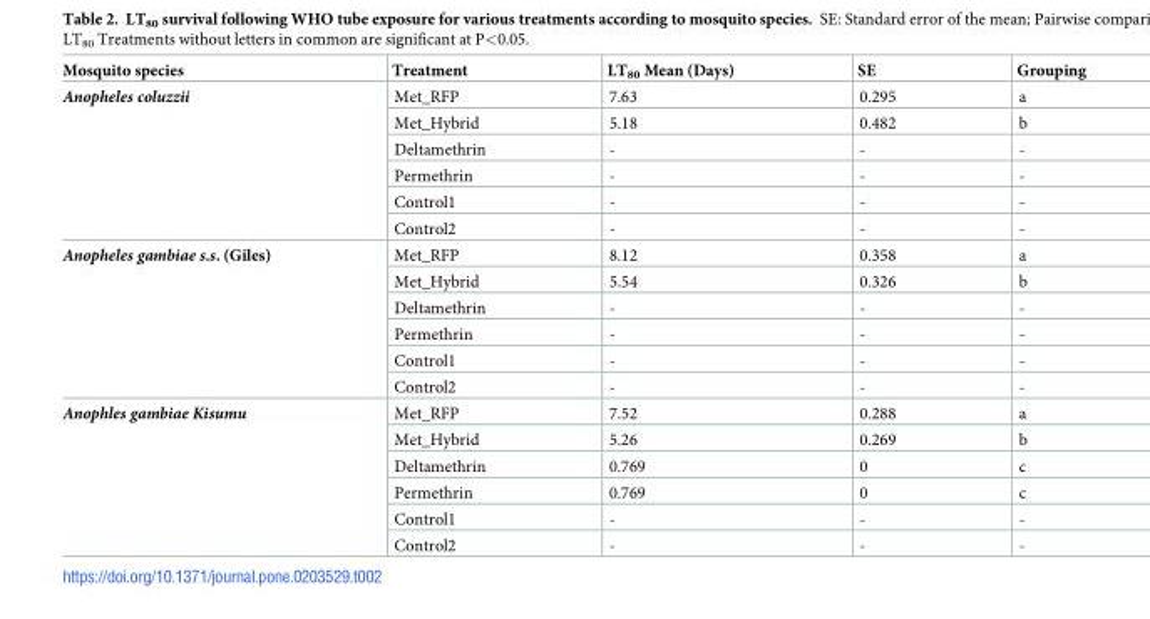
<table><thead><tr><td>Mosquito species</td><td>Treatment</td><td>LT<sub>80</sub> Mean (Days)</td><td>SE</td><td>Grouping</td></tr></thead><tbody><tr><td rowspan="6">Anopheles coluzzii</td><td>Met_RFP</td><td>7.63</td><td>0.295</td><td>a</td></tr><tr><td>Met_Hybrid</td><td>5.18</td><td>0.482</td><td>b</td></tr><tr><td>Deltamethrin</td><td>-</td><td>-</td><td>-</td></tr><tr><td>Permethrin</td><td>-</td><td>-</td><td>-</td></tr><tr><td>Control1</td><td>-</td><td>-</td><td>-</td></tr><tr><td>Control2</td><td>-</td><td>-</td><td>-</td></tr><tr><td rowspan="6">Anopheles gambiae s.s. (Giles)</td><td>Met_RFP</td><td>8.12</td><td>0.358</td><td>a</td></tr><tr><td>Met_Hybrid</td><td>5.54</td><td>0.326</td><td>b</td></tr><tr><td>Deltamethrin</td><td>-</td><td>-</td><td>-</td></tr><tr><td>Permethrin</td><td>-</td><td>-</td><td>-</td></tr><tr><td>Control1</td><td>-</td><td>-</td><td>-</td></tr><tr><td>Control2</td><td>-</td><td>-</td><td>-</td></tr><tr><td rowspan="6">Anophles gambiae Kisumu</td><td>Met_RFP</td><td>7.52</td><td>0.288</td><td>a</td></tr><tr><td>Met_Hybrid</td><td>5.26</td><td>0.269</td><td>b</td></tr><tr><td>Deltamethrin</td><td>0.769</td><td>0</td><td>c</td></tr><tr><td>Permethrin</td><td>0.769</td><td>0</td><td>c</td></tr><tr><td>Control1</td><td>-</td><td>-</td><td>-</td></tr><tr><td>Control2</td><td>-</td><td>-</td><td>-</td></tr></tbody></table>